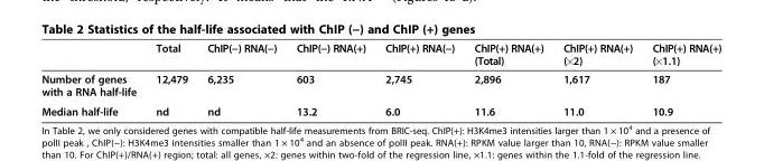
<table><thead><tr><td></td><td>Total</td><td>ChIP(−) RNA(−)</td><td>ChIP(−) RNA(+)</td><td>ChIP(+) RNA(−)</td><td>ChIP(+) RNA(+) (Total)</td><td>ChIP(+) RNA(+) (×2)</td><td>ChIP(+) RNA(+) (×1.1)</td></tr></thead><tbody><tr><td>Number of genes with a RNA half-life</td><td>12,479</td><td>6,235</td><td>603</td><td>2,745</td><td>2,896</td><td>1,617</td><td>187</td></tr><tr><td>Median half-life</td><td>nd</td><td>nd</td><td>13.2</td><td>6.0</td><td>11.6</td><td>11.0</td><td>10.9</td></tr></tbody></table>